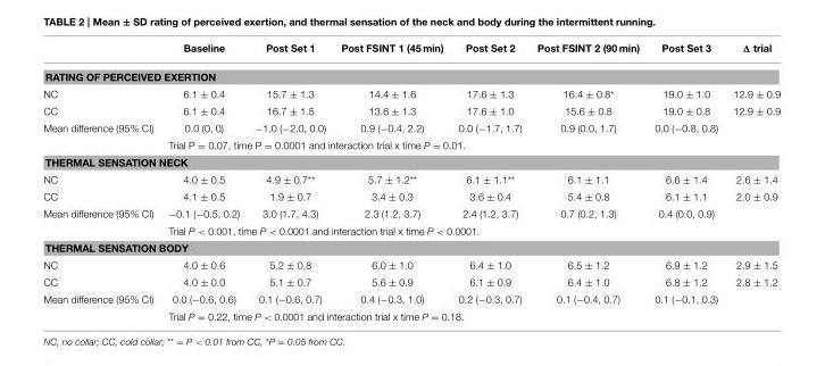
<table><thead><tr><td></td><td>Baseline</td><td>Post Set 1</td><td>Post FSINT 1 (45 min)</td><td>Post Set 2</td><td>Post FSINT 2 (90 min)</td><td>Post Set 3</td><td>Δ trial</td></tr></thead><tbody><tr><td colspan="8">RATING OF PERCEIVED EXERTION</td></tr><tr><td>NC</td><td>6.1 ± 0.4</td><td>15.7 ± 1.3</td><td>14.4 ± 1.6</td><td>17.6 ± 1.3</td><td>16.4 ± 0.8*</td><td>19.0 ± 1.0</td><td>12.9 ± 0.9</td></tr><tr><td>CC</td><td>6.1 ± 0.4</td><td>16.7 ± 1.5</td><td>13.6 ± 1.3</td><td>17.6 ± 1.0</td><td>15.6 ± 0.8</td><td>19.0 ± 0.8</td><td>12.9 ± 0.9</td></tr><tr><td rowspan="2">Mean difference (95% CI)</td><td>0.0 (0, 0)</td><td>−1.0 (−2.0, 0.0)</td><td>0.9 (−0.4, 2.2)</td><td>0.0 (−1.7, 1.7)</td><td>0.9 (0.0, 1.7)</td><td>0.0 (−0.8, 0.8)</td><td></td></tr><tr><td colspan="7">Trial P = 0.07, time P = 0.0001 and interaction trial x time P = 0.01.</td></tr><tr><td colspan="8">THERMAL SENSATION NECK</td></tr><tr><td>NC</td><td>4.0 ± 0.5</td><td>4.9 ± 0.7**</td><td>5.7 ± 1.2**</td><td>6.1 ± 1.1**</td><td>6.1 ± 1.1</td><td>6.6 ± 1.4</td><td>2.6 ± 1.4</td></tr><tr><td>CC</td><td>4.1 ± 0.5</td><td>1.9 ± 0.7</td><td>3.4 ± 0.3</td><td>3.6 ± 0.4</td><td>5.4 ± 0.8</td><td>6.1 ± 1.1</td><td>2.0 ± 0.9</td></tr><tr><td rowspan="2">Mean difference (95% CI)</td><td>−0.1 (−0.5, 0.2)</td><td>3.0 (1.7, 4.3)</td><td>2.3 (1.2, 3.7)</td><td>2.4 (1.2, 3.7)</td><td>0.7 (0.2, 1.3)</td><td>0.4 (0.0, 0.9)</td><td></td></tr><tr><td colspan="7">Trial P &lt; 0.001, time P &lt; 0.0001 and interaction trial x time P &lt; 0.0001.</td></tr><tr><td colspan="8">THERMAL SENSATION BODY</td></tr><tr><td>NC</td><td>4.0 ± 0.6</td><td>5.2 ± 0.8</td><td>6.0 ± 1.0</td><td>6.4 ± 1.0</td><td>6.5 ± 1.2</td><td>6.9 ± 1.2</td><td>2.9 ± 1.5</td></tr><tr><td>CC</td><td>4.0 ± 0.0</td><td>5.1 ± 0.7</td><td>5.6 ± 0.9</td><td>6.1 ± 0.9</td><td>6.4 ± 1.0</td><td>6.8 ± 1.2</td><td>2.8 ± 1.2</td></tr><tr><td rowspan="2">Mean difference (95% CI)</td><td>0.0 (−0.6, 0.6)</td><td>0.1 (−0.6, 0.7)</td><td>0.4 (−0.3, 1.0)</td><td>0.2 (−0.3, 0.7)</td><td>0.1 (−0.4, 0.7)</td><td>0.1 (−0.1, 0.3)</td><td></td></tr><tr><td colspan="7">Trial P = 0.22, time P &lt; 0.0001 and interaction trial x time P = 0.18.</td></tr></tbody></table>